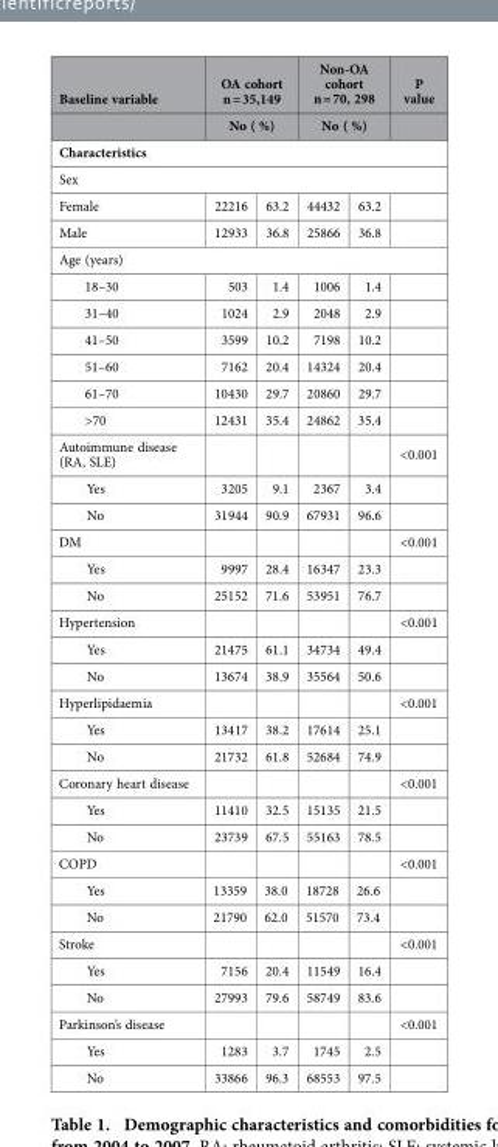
<table><thead><tr><td rowspan="2">Baseline variable</td><td rowspan="2" colspan="2">OA cohort n = 35,149 No ( %)</td><td rowspan="2" colspan="2">Non-OA cohort n = 70, 298 No ( %)</td><td rowspan="2">P value</td></tr><tr></tr><tr><td rowspan="2" colspan="6">Characteristics Sex</td></tr><tr></tr><tr><td>Female</td><td>22216</td><td>63.2</td><td>44432</td><td>63.2</td><td></td></tr></thead><tbody><tr><td>Male</td><td>12933</td><td>36.8</td><td>25866</td><td>36.8</td><td></td></tr><tr><td colspan="6">Age (years)</td></tr><tr><td>18–30</td><td>503</td><td>1.4</td><td>1006</td><td>1.4</td><td></td></tr><tr><td>31–40</td><td>1024</td><td>2.9</td><td>2048</td><td>2.9</td><td></td></tr><tr><td>41–50</td><td>3599</td><td>10.2</td><td>7198</td><td>10.2</td><td></td></tr><tr><td>51–60</td><td>7162</td><td>20.4</td><td>14324</td><td>20.4</td><td></td></tr><tr><td>61–70</td><td>10430</td><td>29.7</td><td>20860</td><td>29.7</td><td></td></tr><tr><td>&gt;70</td><td>12431</td><td>35.4</td><td>24862</td><td>35.4</td><td></td></tr><tr><td>Autoimmune disease (RA, SLE)</td><td></td><td></td><td></td><td></td><td>&lt;0.001</td></tr><tr><td>Yes</td><td>3205</td><td>9.1</td><td>2367</td><td>3.4</td><td></td></tr><tr><td>No</td><td>31944</td><td>90.9</td><td>67931</td><td>96.6</td><td></td></tr><tr><td>DM</td><td></td><td></td><td></td><td></td><td>&lt;0.001</td></tr><tr><td>Yes</td><td>9997</td><td>28.4</td><td>16347</td><td>23.3</td><td></td></tr><tr><td>No</td><td>25152</td><td>71.6</td><td>53951</td><td>76.7</td><td></td></tr><tr><td>Hypertension</td><td></td><td></td><td></td><td></td><td>&lt;0.001</td></tr><tr><td>Yes</td><td>21475</td><td>61.1</td><td>34734</td><td>49.4</td><td></td></tr><tr><td>No</td><td>13674</td><td>38.9</td><td>35564</td><td>50.6</td><td></td></tr><tr><td>Hyperlipidaemia</td><td></td><td></td><td></td><td></td><td>&lt;0.001</td></tr><tr><td>Yes</td><td>13417</td><td>38.2</td><td>17614</td><td>25.1</td><td></td></tr><tr><td>No</td><td>21732</td><td>61.8</td><td>52684</td><td>74.9</td><td></td></tr><tr><td>Coronary heart disease</td><td></td><td></td><td></td><td></td><td>&lt;0.001</td></tr><tr><td>Yes</td><td>11410</td><td>32.5</td><td>15135</td><td>21.5</td><td></td></tr><tr><td>No</td><td>23739</td><td>67.5</td><td>55163</td><td>78.5</td><td></td></tr><tr><td>COPD</td><td></td><td></td><td></td><td></td><td>&lt;0.001</td></tr><tr><td>Yes</td><td>13359</td><td>38.0</td><td>18728</td><td>26.6</td><td></td></tr><tr><td>No</td><td>21790</td><td>62.0</td><td>51570</td><td>73.4</td><td></td></tr><tr><td>Stroke</td><td></td><td></td><td></td><td></td><td>&lt;0.001</td></tr><tr><td>Yes</td><td>7156</td><td>20.4</td><td>11549</td><td>16.4</td><td></td></tr><tr><td>No</td><td>27993</td><td>79.6</td><td>58749</td><td>83.6</td><td></td></tr><tr><td>Parkinson’s disease</td><td></td><td></td><td></td><td></td><td>&lt;0.001</td></tr><tr><td>Yes</td><td>1283</td><td>3.7</td><td>1745</td><td>2.5</td><td></td></tr><tr><td>No</td><td>33866</td><td>96.3</td><td>68553</td><td>97.5</td><td></td></tr></tbody></table>